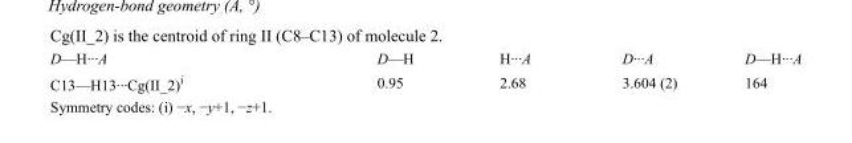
<table><tbody><tr><td>D—H···A</td><td>D—H</td><td>H···A</td><td>D···A</td><td>D—H···A</td></tr><tr><td>C13—H13···Cg(II_2)<sup>i</sup></td><td>0.95</td><td>2.68</td><td>3.604 (2)</td><td>164</td></tr></tbody></table>